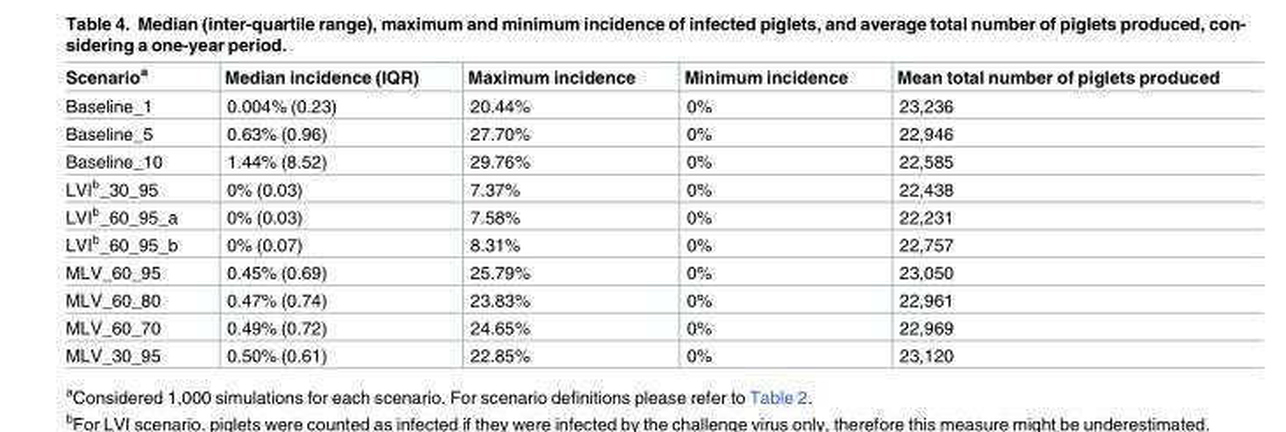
<table><thead><tr><td>Scenario<sup>a</sup></td><td>Median incidence (IQR)</td><td>Maximum incidence</td><td>Minimum incidence</td><td>Mean total number of piglets produced</td></tr></thead><tbody><tr><td>Baseline_1</td><td>0.004% (0.23)</td><td>20.44%</td><td>0%</td><td>23,236</td></tr><tr><td>Baseline_5</td><td>0.63% (0.96)</td><td>27.70%</td><td>0%</td><td>22,946</td></tr><tr><td>Baseline_10</td><td>1.44% (8.52)</td><td>29.76%</td><td>0%</td><td>22,585</td></tr><tr><td>LVI<sup>b</sup>_30_95</td><td>0% (0.03)</td><td>7.37%</td><td>0%</td><td>22,438</td></tr><tr><td>LVI<sup>b</sup>_60_95_a</td><td>0% (0.03)</td><td>7.58%</td><td>0%</td><td>22,231</td></tr><tr><td>LVI<sup>b</sup>_60_95_b</td><td>0% (0.07)</td><td>8.31%</td><td>0%</td><td>22,757</td></tr><tr><td>MLV_60_95</td><td>0.45% (0.69)</td><td>25.79%</td><td>0%</td><td>23,050</td></tr><tr><td>MLV_60_80</td><td>0.47% (0.74)</td><td>23.83%</td><td>0%</td><td>22,961</td></tr><tr><td>MLV_60_70</td><td>0.49% (0.72)</td><td>24.65%</td><td>0%</td><td>22,969</td></tr><tr><td>MLV_30_95</td><td>0.50% (0.61)</td><td>22.85%</td><td>0%</td><td>23,120</td></tr></tbody></table>